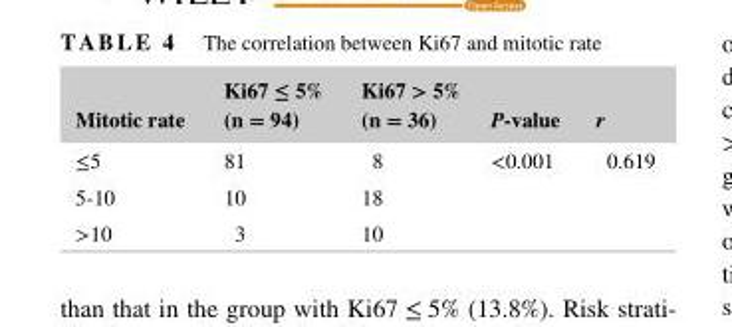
<table><thead><tr><td>Mitotic rate</td><td>Ki67 ≤ 5% (n = 94)</td><td>Ki67 &gt; 5% (n = 36)</td><td>P- value</td><td>r</td></tr></thead><tbody><tr><td>≤5</td><td>81</td><td>8</td><td rowspan="3">&lt;0.001</td><td rowspan="3">0.619</td></tr><tr><td>5- 10</td><td>10</td><td>18</td></tr><tr><td>&gt;10</td><td>3</td><td>10</td></tr></tbody></table>